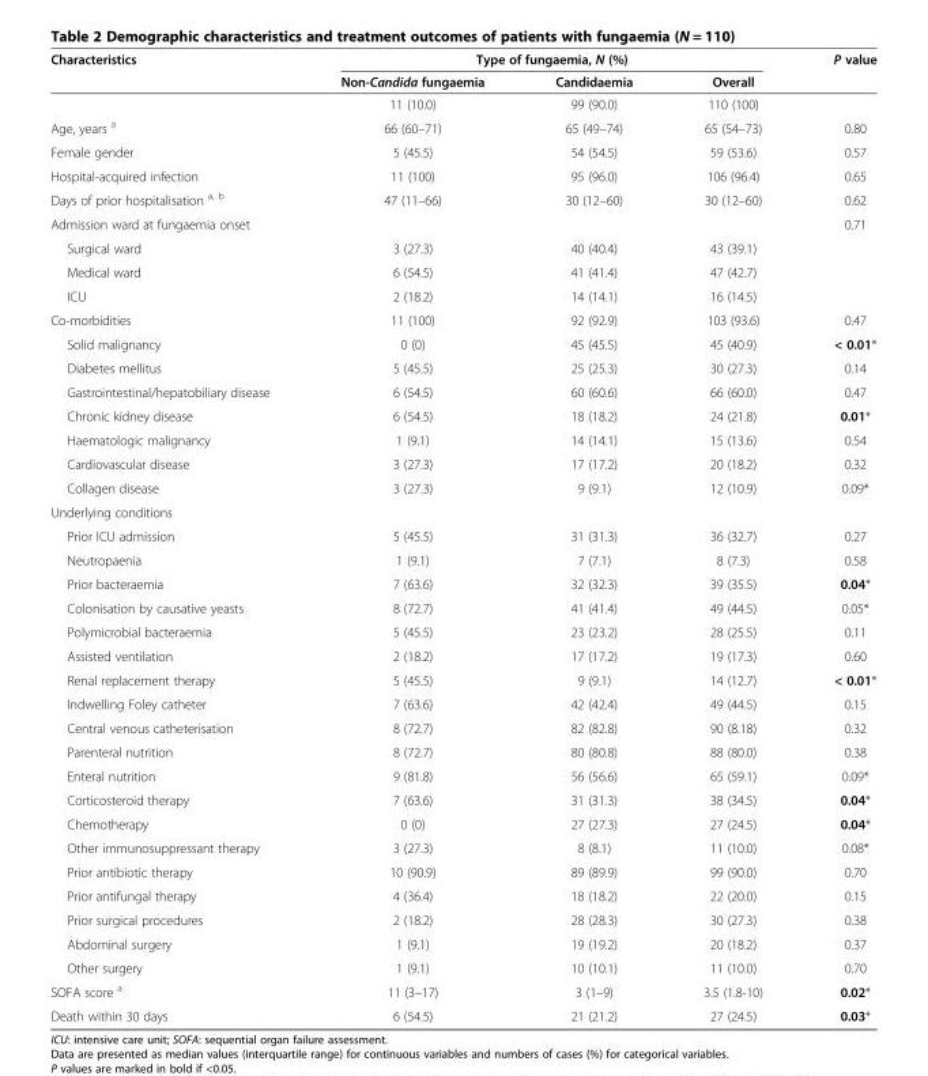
<table><thead><tr><td rowspan="2">Characteristics</td><td colspan="3">Type of fungaemia, N (%)</td><td rowspan="2">P value</td></tr><tr><td>Non-Candida fungaemia</td><td>Candidaemia</td><td>Overall</td></tr></thead><tbody><tr><td></td><td>11 (10.0)</td><td>99 (90.0)</td><td>110 (100)</td><td></td></tr><tr><td>Age, years <sup>a</sup></td><td>66 (60–71)</td><td>65 (49–74)</td><td>65 (54–73)</td><td>0.80</td></tr><tr><td>Female gender</td><td>5 (45.5)</td><td>54 (54.5)</td><td>59 (53.6)</td><td>0.57</td></tr><tr><td>Hospital-acquired infection</td><td>11 (100)</td><td>95 (96.0)</td><td>106 (96.4)</td><td>0.65</td></tr><tr><td>Days of prior hospitalisation <sup>a, b</sup></td><td>47 (11–66)</td><td>30 (12–60)</td><td>30 (12–60)</td><td>0.62</td></tr><tr><td colspan="4">Admission ward at fungaemia onset</td><td>0.71</td></tr><tr><td>Surgical ward</td><td>3 (27.3)</td><td>40 (40.4)</td><td>43 (39.1)</td><td></td></tr><tr><td>Medical ward</td><td>6 (54.5)</td><td>41 (41.4)</td><td>47 (42.7)</td><td></td></tr><tr><td>ICU</td><td>2 (18.2)</td><td>14 (14.1)</td><td>16 (14.5)</td><td></td></tr><tr><td>Co-morbidities</td><td>11 (100)</td><td>92 (92.9)</td><td>103 (93.6)</td><td>0.47</td></tr><tr><td>Solid malignancy</td><td>0 (0)</td><td>45 (45.5)</td><td>45 (40.9)</td><td>&lt; 0.01*</td></tr><tr><td>Diabetes mellitus</td><td>5 (45.5)</td><td>25 (25.3)</td><td>30 (27.3)</td><td>0.14</td></tr><tr><td>Gastrointestinal/hepatobiliary disease</td><td>6 (54.5)</td><td>60 (60.6)</td><td>66 (60.0)</td><td>0.47</td></tr><tr><td>Chronic kidney disease</td><td>6 (54.5)</td><td>18 (18.2)</td><td>24 (21.8)</td><td>0.01*</td></tr><tr><td>Haematologic malignancy</td><td>1 (9.1)</td><td>14 (14.1)</td><td>15 (13.6)</td><td>0.54</td></tr><tr><td>Cardiovascular disease</td><td>3 (27.3)</td><td>17 (17.2)</td><td>20 (18.2)</td><td>0.32</td></tr><tr><td>Collagen disease</td><td>3 (27.3)</td><td>9 (9.1)</td><td>12 (10.9)</td><td>0.09*</td></tr><tr><td colspan="5">Underlying conditions</td></tr><tr><td>Prior ICU admission</td><td>5 (45.5)</td><td>31 (31.3)</td><td>36 (32.7)</td><td>0.27</td></tr><tr><td>Neutropaenia</td><td>1 (9.1)</td><td>7 (7.1)</td><td>8 (7.3)</td><td>0.58</td></tr><tr><td>Prior bacteraemia</td><td>7 (63.6)</td><td>32 (32.3)</td><td>39 (35.5)</td><td>0.04*</td></tr><tr><td>Colonisation by causative yeasts</td><td>8 (72.7)</td><td>41 (41.4)</td><td>49 (44.5)</td><td>0.05*</td></tr><tr><td>Polymicrobial bacteraemia</td><td>5 (45.5)</td><td>23 (23.2)</td><td>28 (25.5)</td><td>0.11</td></tr><tr><td>Assisted ventilation</td><td>2 (18.2)</td><td>17 (17.2)</td><td>19 (17.3)</td><td>0.60</td></tr><tr><td>Renal replacement therapy</td><td>5 (45.5)</td><td>9 (9.1)</td><td>14 (12.7)</td><td>&lt; 0.01*</td></tr><tr><td>Indwelling Foley catheter</td><td>7 (63.6)</td><td>42 (42.4)</td><td>49 (44.5)</td><td>0.15</td></tr><tr><td>Central venous catheterisation</td><td>8 (72.7)</td><td>82 (82.8)</td><td>90 (8.18)</td><td>0.32</td></tr><tr><td>Parenteral nutrition</td><td>8 (72.7)</td><td>80 (80.8)</td><td>88 (80.0)</td><td>0.38</td></tr><tr><td>Enteral nutrition</td><td>9 (81.8)</td><td>56 (56.6)</td><td>65 (59.1)</td><td>0.09*</td></tr><tr><td>Corticosteroid therapy</td><td>7 (63.6)</td><td>31 (31.3)</td><td>38 (34.5)</td><td>0.04*</td></tr><tr><td>Chemotherapy</td><td>0 (0)</td><td>27 (27.3)</td><td>27 (24.5)</td><td>0.04*</td></tr><tr><td>Other immunosuppressant therapy</td><td>3 (27.3)</td><td>8 (8.1)</td><td>11 (10.0)</td><td>0.08*</td></tr><tr><td>Prior antibiotic therapy</td><td>10 (90.9)</td><td>89 (89.9)</td><td>99 (90.0)</td><td>0.70</td></tr><tr><td>Prior antifungal therapy</td><td>4 (36.4)</td><td>18 (18.2)</td><td>22 (20.0)</td><td>0.15</td></tr><tr><td>Prior surgical procedures</td><td>2 (18.2)</td><td>28 (28.3)</td><td>30 (27.3)</td><td>0.38</td></tr><tr><td>Abdominal surgery</td><td>1 (9.1)</td><td>19 (19.2)</td><td>20 (18.2)</td><td>0.37</td></tr><tr><td>Other surgery</td><td>1 (9.1)</td><td>10 (10.1)</td><td>11 (10.0)</td><td>0.70</td></tr><tr><td>SOFA score <sup>a</sup></td><td>11 (3–17)</td><td>3 (1–9)</td><td>3.5 (1.8-10)</td><td>0.02*</td></tr><tr><td>Death within 30 days</td><td>6 (54.5)</td><td>21 (21.2)</td><td>27 (24.5)</td><td>0.03*</td></tr></tbody></table>